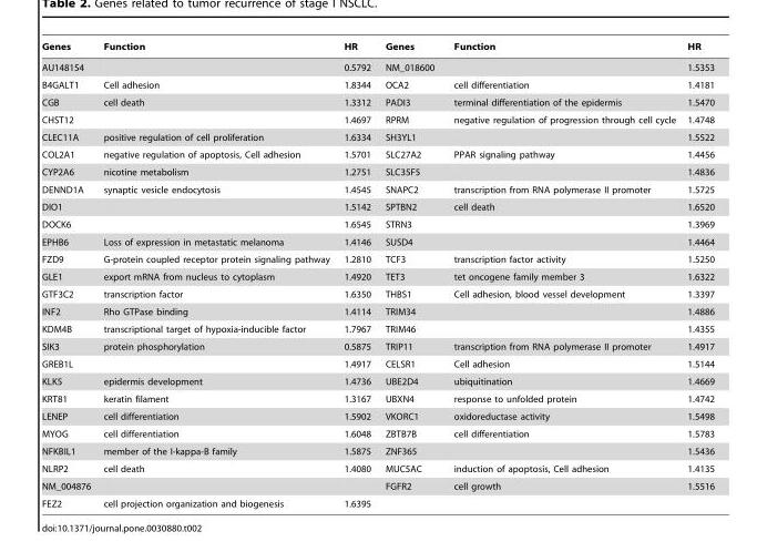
<table><thead><tr><td>Genes</td><td>Function</td><td>HR</td><td>Genes</td><td>Function</td><td>HR</td></tr></thead><tbody><tr><td>AU148154</td><td></td><td>0.5792</td><td>NM_018600</td><td></td><td>1.5353</td></tr><tr><td>B4GALT1</td><td>Cell adhesion</td><td>1.8344</td><td>OCA2</td><td>cell differentiation</td><td>1.4181</td></tr><tr><td>CGB</td><td>cell death</td><td>1.3312</td><td>PADI3</td><td>terminal differentiation of the epidermis</td><td>1.5470</td></tr><tr><td>CHST12</td><td></td><td>1.4697</td><td>RPRM</td><td>negative regulation of progression through cell cycle</td><td>1.4748</td></tr><tr><td>CLEC11A</td><td>positive regulation of cell proliferation</td><td>1.6334</td><td>SH3YL1</td><td></td><td>1.5522</td></tr><tr><td>COL2A1</td><td>negative regulation of apoptosis, Cell adhesion</td><td>1.5701</td><td>SLC27A2</td><td>PPAR signaling pathway</td><td>1.4456</td></tr><tr><td>CYP2A6</td><td>nicotine metabolism</td><td>1.2751</td><td>SLC35F5</td><td></td><td>1.4836</td></tr><tr><td>DENND1A</td><td>synaptic vesicle endocytosis</td><td>1.4545</td><td>SNAPC2</td><td>transcription from RNA polymerase II promoter</td><td>1.5725</td></tr><tr><td>DIO1</td><td></td><td>1.5142</td><td>SPTBN2</td><td>cell death</td><td>1.6520</td></tr><tr><td>DOCK6</td><td></td><td>1.6545</td><td>STRN3</td><td></td><td>1.3969</td></tr><tr><td>EPHB6</td><td>Loss of expression in metastatic melanoma</td><td>1.4146</td><td>SUSD4</td><td></td><td>1.4464</td></tr><tr><td>FZD9</td><td>G-protein coupled receptor protein signaling pathway</td><td>1.2810</td><td>TCF3</td><td>transcription factor activity</td><td>1.5250</td></tr><tr><td>GLE1</td><td>export mRNA from nucleus to cytoplasm</td><td>1.4920</td><td>TET3</td><td>tet oncogene family member 3</td><td>1.6322</td></tr><tr><td>GTF3C2</td><td>transcription factor</td><td>1.6350</td><td>THBS1</td><td>Cell adhesion, blood vessel development</td><td>1.3397</td></tr><tr><td>INF2</td><td>Rho GTPase binding</td><td>1.4114</td><td>TRIM34</td><td></td><td>1.4886</td></tr><tr><td>KDM4B</td><td>transcriptional target of hypoxia-inducible factor</td><td>1.7967</td><td>TRIM46</td><td></td><td>1.4355</td></tr><tr><td>SIK3</td><td>protein phosphorylation</td><td>0.5875</td><td>TRIP11</td><td>transcription from RNA polymerase II promoter</td><td>1.4917</td></tr><tr><td>GREB1L</td><td></td><td>1.4917</td><td>CELSR1</td><td>Cell adhesion</td><td>1.5144</td></tr><tr><td>KLK5</td><td>epidermis development</td><td>1.4736</td><td>UBE2D4</td><td>ubiquitination</td><td>1.4669</td></tr><tr><td>KRT81</td><td>keratin filament</td><td>1.3167</td><td>UBXN4</td><td>response to unfolded protein</td><td>1.4742</td></tr><tr><td>LENEP</td><td>cell differentiation</td><td>1.5902</td><td>VKORC1</td><td>oxidoreductase activity</td><td>1.5498</td></tr><tr><td>MYOG</td><td>cell differentiation</td><td>1.6048</td><td>ZBTB7B</td><td>cell differentiation</td><td>1.5783</td></tr><tr><td>NFKBIL1</td><td>member of the I-kappa-B family</td><td>1.5875</td><td>ZNF365</td><td></td><td>1.5436</td></tr><tr><td>NLRP2</td><td>cell death</td><td>1.4080</td><td>MUC5AC</td><td>induction of apoptosis, Cell adhesion</td><td>1.4135</td></tr><tr><td>NM_004876</td><td></td><td></td><td>FGFR2</td><td>cell growth</td><td>1.5516</td></tr><tr><td>FEZ2</td><td>cell projection organization and biogenesis</td><td>1.6395</td><td></td><td></td><td></td></tr></tbody></table>